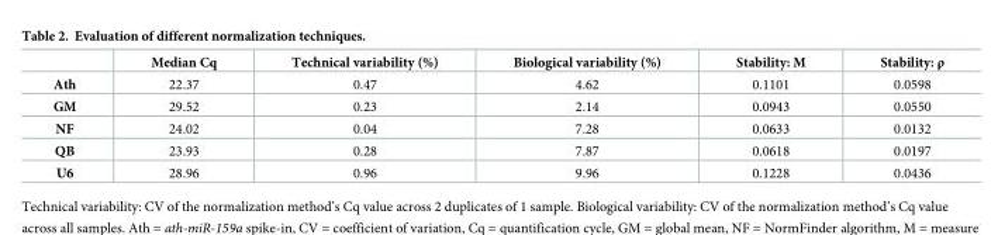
<table><thead><tr><td></td><td>Median Cq</td><td>Technical variability (%)</td><td>Biological variability (%)</td><td>Stability: M</td><td>Stability: ρ</td></tr></thead><tbody><tr><td>Ath</td><td>22.37</td><td>0.47</td><td>4.62</td><td>0.1101</td><td>0.0598</td></tr><tr><td>GM</td><td>29.52</td><td>0.23</td><td>2.14</td><td>0.0943</td><td>0.0550</td></tr><tr><td>NF</td><td>24.02</td><td>0.04</td><td>7.28</td><td>0.0633</td><td>0.0132</td></tr><tr><td>QB</td><td>23.93</td><td>0.28</td><td>7.87</td><td>0.0618</td><td>0.0197</td></tr><tr><td>U6</td><td>28.96</td><td>0.96</td><td>9.96</td><td>0.1228</td><td>0.0436</td></tr></tbody></table>